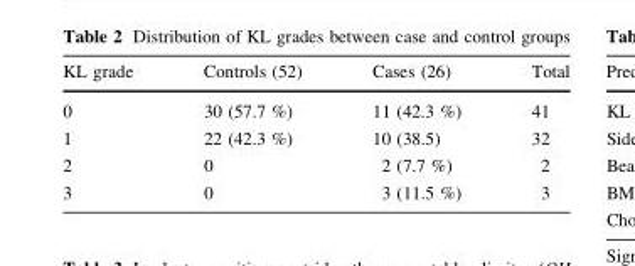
<table><thead><tr><td>KL grade</td><td>Controls (52)</td><td>Cases (26)</td><td>Total</td></tr></thead><tbody><tr><td>0</td><td>30 (57.7 %)</td><td>11 (42.3 %)</td><td>41</td></tr><tr><td>1</td><td>22 (42.3 %)</td><td>10 (38.5)</td><td>32</td></tr><tr><td>2</td><td>0</td><td>2 (7.7 %)</td><td>2</td></tr><tr><td>3</td><td>0</td><td>3 (11.5 %)</td><td>3</td></tr></tbody></table>